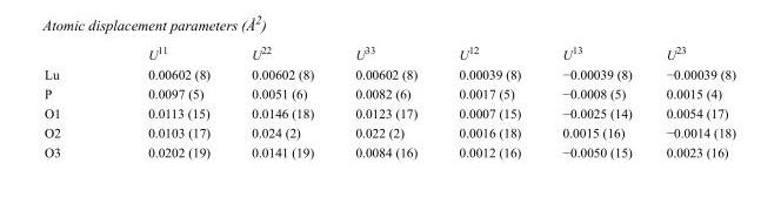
<table><thead><tr><td></td><td>U<sup>11</sup></td><td>U<sup>22</sup></td><td>U<sup>33</sup></td><td>U<sup>12</sup></td><td>U<sup>13</sup></td><td>U<sup>23</sup></td></tr></thead><tbody><tr><td>Lu</td><td>0.00602 (8)</td><td>0.00602 (8)</td><td>0.00602 (8)</td><td>0.00039 (8)</td><td>−0.00039 (8)</td><td>−0.00039 (8)</td></tr><tr><td>P</td><td>0.0097 (5)</td><td>0.0051 (6)</td><td>0.0082 (6)</td><td>0.0017 (5)</td><td>−0.0008 (5)</td><td>0.0015 (4)</td></tr><tr><td>O1</td><td>0.0113 (15)</td><td>0.0146 (18)</td><td>0.0123 (17)</td><td>0.0007 (15)</td><td>−0.0025 (14)</td><td>0.0054 (17)</td></tr><tr><td>O2</td><td>0.0103 (17)</td><td>0.024 (2)</td><td>0.022 (2)</td><td>0.0016 (18)</td><td>0.0015 (16)</td><td>−0.0014 (18)</td></tr><tr><td>O3</td><td>0.0202 (19)</td><td>0.0141 (19)</td><td>0.0084 (16)</td><td>0.0012 (16)</td><td>−0.0050 (15)</td><td>0.0023 (16)</td></tr></tbody></table>